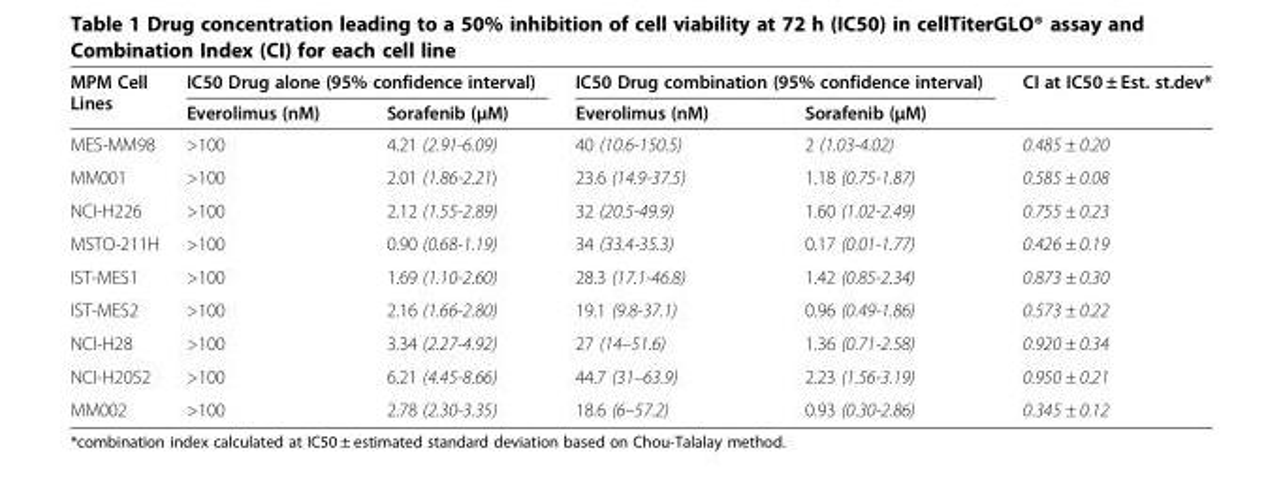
<table><thead><tr><td rowspan="2">MPM Cell Lines</td><td colspan="2">IC50 Drug alone (95% confidence interval)</td><td colspan="2">IC50 Drug combination (95% confidence interval)</td><td rowspan="2">CI at IC50 ± Est. st.dev*</td></tr><tr><td>Everolimus (nM)</td><td>Sorafenib (μM)</td><td>Everolimus (nM)</td><td>Sorafenib (μM)</td></tr></thead><tbody><tr><td>MES-MM98</td><td>&gt;100</td><td>4.21 (2.91-6.09)</td><td>40 (10.6-150.5)</td><td>2 (1.03-4.02)</td><td>0.485 ± 0.20</td></tr><tr><td>MM001</td><td>&gt;100</td><td>2.01 (1.86-2.21)</td><td>23.6 (14.9-37.5)</td><td>1.18 (0.75-1.87)</td><td>0.585 ± 0.08</td></tr><tr><td>NCI-H226</td><td>&gt;100</td><td>2.12 (1.55-2.89)</td><td>32 (20.5-49.9)</td><td>1.60 (1.02-2.49)</td><td>0.755 ± 0.23</td></tr><tr><td>MSTO-211H</td><td>&gt;100</td><td>0.90 (0.68-1.19)</td><td>34 (33.4-35.3)</td><td>0.17 (0.01-1.77)</td><td>0.426 ± 0.19</td></tr><tr><td>IST-MES1</td><td>&gt;100</td><td>1.69 (1.10-2.60)</td><td>28.3 (17.1-46.8)</td><td>1.42 (0.85-2.34)</td><td>0.873 ± 0.30</td></tr><tr><td>IST-MES2</td><td>&gt;100</td><td>2.16 (1.66-2.80)</td><td>19.1 (9.8-37.1)</td><td>0.96 (0.49-1.86)</td><td>0.573 ± 0.22</td></tr><tr><td>NCI-H28</td><td>&gt;100</td><td>3.34 (2.27-4.92)</td><td>27 (14–51.6)</td><td>1.36 (0.71-2.58)</td><td>0.920 ± 0.34</td></tr><tr><td>NCI-H2052</td><td>&gt;100</td><td>6.21 (4.45-8.66)</td><td>44.7 (31–63.9)</td><td>2.23 (1.56-3.19)</td><td>0.950 ± 0.21</td></tr><tr><td>MM002</td><td>&gt;100</td><td>2.78 (2.30-3.35)</td><td>18.6 (6–57.2)</td><td>0.93 (0.30-2.86)</td><td>0.345 ± 0.12</td></tr></tbody></table>